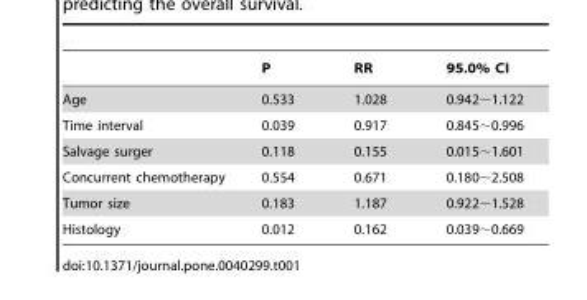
<table><thead><tr><td></td><td>P</td><td>RR</td><td>95.0% CI</td></tr></thead><tbody><tr><td>Age</td><td>0.533</td><td>1.028</td><td>0.942∼1.122</td></tr><tr><td>Time interval</td><td>0.039</td><td>0.917</td><td>0.845∼0.996</td></tr><tr><td>Salvage surger</td><td>0.118</td><td>0.155</td><td>0.015∼1.601</td></tr><tr><td>Concurrent chemotherapy</td><td>0.554</td><td>0.671</td><td>0.180∼2.508</td></tr><tr><td>Tumor size</td><td>0.183</td><td>1.187</td><td>0.922∼1.528</td></tr><tr><td>Histology</td><td>0.012</td><td>0.162</td><td>0.039∼0.669</td></tr></tbody></table>